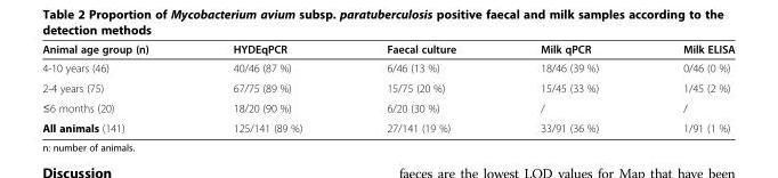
<table><thead><tr><td>Animal age group (n)</td><td>HYDEqPCR</td><td>Faecal culture</td><td>Milk qPCR</td><td>Milk ELISA</td></tr></thead><tbody><tr><td>4-10 years (46)</td><td>40/46 (87 %)</td><td>6/46 (13 %)</td><td>18/46 (39 %)</td><td>0/46 (0 %)</td></tr><tr><td>2-4 years (75)</td><td>67/75 (89 %)</td><td>15/75 (20 %)</td><td>15/45 (33 %)</td><td>1/45 (2 %)</td></tr><tr><td>≤6 months (20)</td><td>18/20 (90 %)</td><td>6/20 (30 %)</td><td>/</td><td>/</td></tr><tr><td>All animals (141)</td><td>125/141 (89 %)</td><td>27/141 (19 %)</td><td>33/91 (36 %)</td><td>1/91 (1 %)</td></tr></tbody></table>